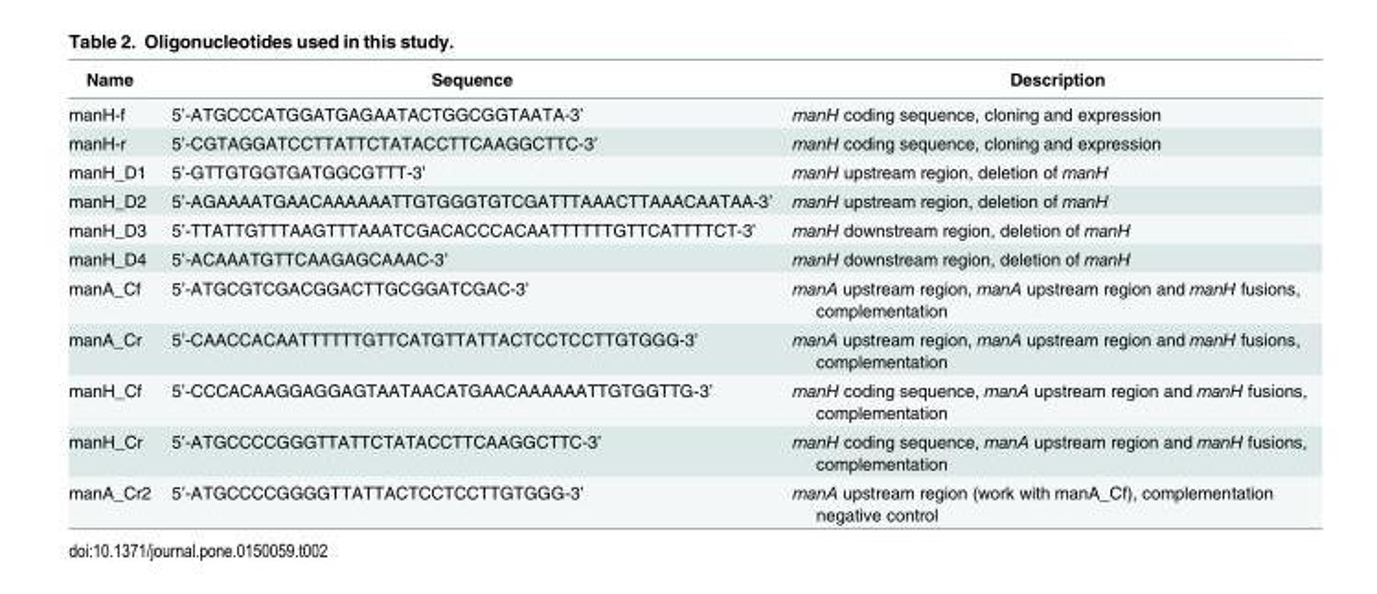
<table><thead><tr><td>Name</td><td>Sequence</td><td>Description</td></tr></thead><tbody><tr><td>manH-f</td><td>5’-ATGCCCATGGATGAGAATACTGGCGGTAATA-3’</td><td>manH coding sequence, cloning and expression</td></tr><tr><td>manH-r</td><td>5’-CGTAGGATCCTTATTCTATACCTTCAAGGCTTC-3’</td><td>manH coding sequence, cloning and expression</td></tr><tr><td>manH_D1</td><td>5’-GTTGTGGTGATGGCGTTT-3’</td><td>manH upstream region, deletion of manH</td></tr><tr><td>manH_D2</td><td>5’-AGAAAATGAACAAAAAATTGTGGGTGTCGATTTAAACTTAAACAATAA-3’</td><td>manH upstream region, deletion of manH</td></tr><tr><td>manH_D3</td><td>5’-TTATTGTTTAAGTTTAAATCGACACCCACAATTTTTTGTTCATTTTCT-3’</td><td>manH downstream region, deletion of manH</td></tr><tr><td>manH_D4</td><td>5’-ACAAATGTTCAAGAGCAAAC-3’</td><td>manH downstream region, deletion of manH</td></tr><tr><td>manA_Cf</td><td>5’-ATGCGTCGACGGACTTGCGGATCGAC-3’</td><td>manA upstream region, manA upstream region and manH fusions, complementation</td></tr><tr><td>manA_Cr</td><td>5’-CAACCACAATTTTTTGTTCATGTTATTACTCCTCCTTGTGGG-3’</td><td>manA upstream region, manA upstream region and manH fusions, complementation</td></tr><tr><td>manH_Cf</td><td>5’-CCCACAAGGAGGAGTAATAACATGAACAAAAAATTGTGGTTG-3’</td><td>manH coding sequence, manA upstream region and manH fusions, complementation</td></tr><tr><td>manH_Cr</td><td>5’-ATGCCCCGGGTTATTCTATACCTTCAAGGCTTC-3’</td><td>manH coding sequence, manA upstream region and manH fusions, complementation</td></tr><tr><td>manA_Cr2</td><td>5’-ATGCCCCGGGGTTATTACTCCTCCTTGTGGG-3’</td><td>manA upstream region (work with manA_Cf), complementation negative control</td></tr></tbody></table>